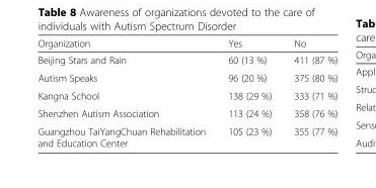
<table><thead><tr><td>Organization</td><td>Yes</td><td>No</td></tr></thead><tbody><tr><td>Beijing Stars and Rain</td><td>60 (13 %)</td><td>411 (87 %)</td></tr><tr><td>Autism Speaks</td><td>96 (20 %)</td><td>375 (80 %)</td></tr><tr><td>Kangna School</td><td>138 (29 %)</td><td>333 (71 %)</td></tr><tr><td>Shenzhen Autism Association</td><td>113 (24 %)</td><td>358 (76 %)</td></tr><tr><td>Guangzhou TaiYangChuan Rehabilitation and Education Center</td><td>105 (23 %)</td><td>355 (77 %)</td></tr></tbody></table>